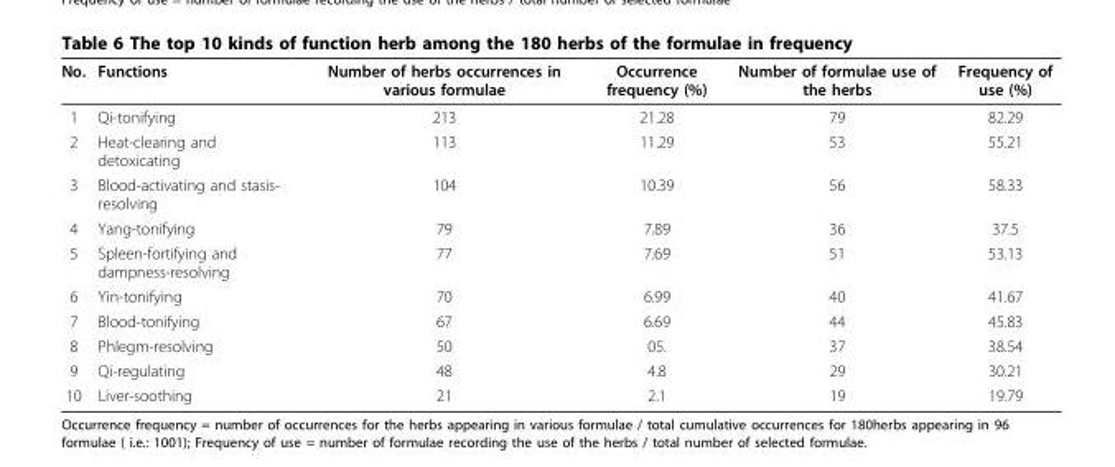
<table><thead><tr><td>No.</td><td>Functions</td><td>Number of herbs occurrences in various formulae</td><td>Occurrence frequency (%)</td><td>Number of formulae use of the herbs</td><td>Frequency of use (%)</td></tr></thead><tbody><tr><td>1</td><td>Qi-tonifying</td><td>213</td><td>21.28</td><td>79</td><td>82.29</td></tr><tr><td>2</td><td>Heat-clearing and detoxicating</td><td>113</td><td>11.29</td><td>53</td><td>55.21</td></tr><tr><td>3</td><td>Blood-activating and stasis- resolving</td><td>104</td><td>10.39</td><td>56</td><td>58.33</td></tr><tr><td>4</td><td>Yang-tonifying</td><td>79</td><td>7.89</td><td>36</td><td>37.5</td></tr><tr><td>5</td><td>Spleen-fortifying and dampness-resolving</td><td>77</td><td>7.69</td><td>51</td><td>53.13</td></tr><tr><td>6</td><td>Yin-tonifying</td><td>70</td><td>6.99</td><td>40</td><td>41.67</td></tr><tr><td>7</td><td>Blood-tonifying</td><td>67</td><td>6.69</td><td>44</td><td>45.83</td></tr><tr><td>8</td><td>Phlegm-resolving</td><td>50</td><td>05.</td><td>37</td><td>38.54</td></tr><tr><td>9</td><td>Qi-regulating</td><td>48</td><td>4.8</td><td>29</td><td>30.21</td></tr><tr><td>10</td><td>Liver-soothing</td><td>21</td><td>2.1</td><td>19</td><td>19.79</td></tr></tbody></table>